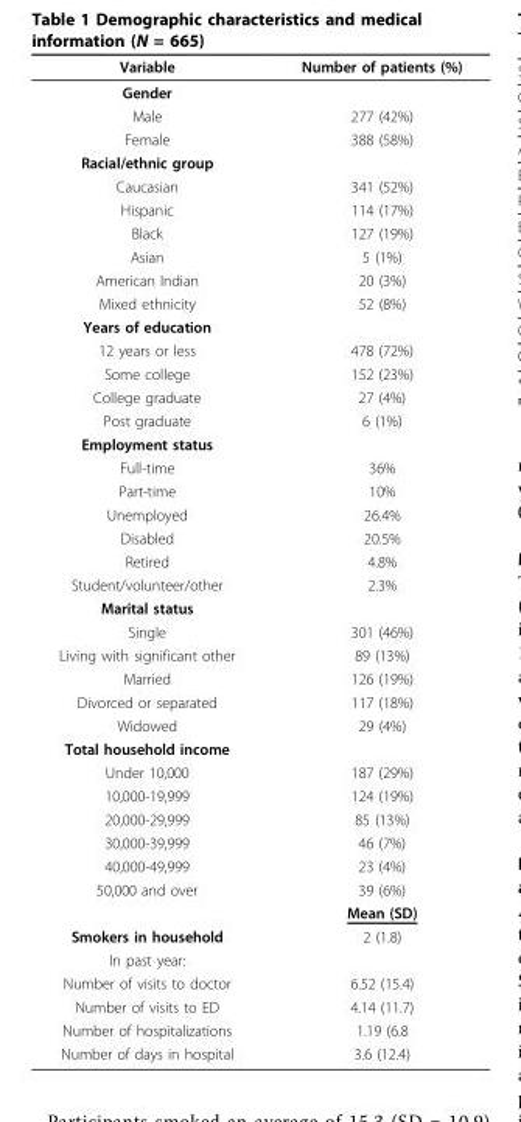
<table><thead><tr><td>Variable</td><td>Number of patients (%)</td></tr></thead><tbody><tr><td colspan="2">Gender</td></tr><tr><td>Male</td><td>277 (42%)</td></tr><tr><td>Female</td><td>388 (58%)</td></tr><tr><td colspan="2">Racial/ethnic group</td></tr><tr><td>Caucasian</td><td>341 (52%)</td></tr><tr><td>Hispanic</td><td>114 (17%)</td></tr><tr><td>Black</td><td>127 (19%)</td></tr><tr><td>Asian</td><td>5 (1%)</td></tr><tr><td>American Indian</td><td>20 (3%)</td></tr><tr><td>Mixed ethnicity</td><td>52 (8%)</td></tr><tr><td colspan="2">Years of education</td></tr><tr><td>12 years or less</td><td>478 (72%)</td></tr><tr><td>Some college</td><td>152 (23%)</td></tr><tr><td>College graduate</td><td>27 (4%)</td></tr><tr><td>Post graduate</td><td>6 (1%)</td></tr><tr><td colspan="2">Employment status</td></tr><tr><td>Full-time</td><td>36%</td></tr><tr><td>Part-time</td><td>10%</td></tr><tr><td>Unemployed</td><td>26.4%</td></tr><tr><td>Disabled</td><td>20.5%</td></tr><tr><td>Retired</td><td>4.8%</td></tr><tr><td>Student/volunteer/other</td><td>2.3%</td></tr><tr><td colspan="2">Marital status</td></tr><tr><td>Single</td><td>301 (46%)</td></tr><tr><td>Living with significant other</td><td>89 (13%)</td></tr><tr><td>Married</td><td>126 (19%)</td></tr><tr><td>Divorced or separated</td><td>117 (18%)</td></tr><tr><td>Widowed</td><td>29 (4%)</td></tr><tr><td colspan="2">Total household income</td></tr><tr><td>Under 10,000</td><td>187 (29%)</td></tr><tr><td>10,000-19,999</td><td>124 (19%)</td></tr><tr><td>20,000-29,999</td><td>85 (13%)</td></tr><tr><td>30,000-39,999</td><td>46 (7%)</td></tr><tr><td>40,000-49,999</td><td>23 (4%)</td></tr><tr><td rowspan="2">50,000 and over</td><td>39 (6%)</td></tr><tr><td>Mean (SD)</td></tr><tr><td>Smokers in household</td><td>2 (1.8)</td></tr><tr><td colspan="2">In past year:</td></tr><tr><td>Number of visits to doctor</td><td>6.52 (15.4)</td></tr><tr><td>Number of visits to ED</td><td>4.14 (11.7)</td></tr><tr><td>Number of hospitalizations</td><td>1.19 (6.8</td></tr><tr><td>Number of days in hospital</td><td>3.6 (12.4)</td></tr></tbody></table>